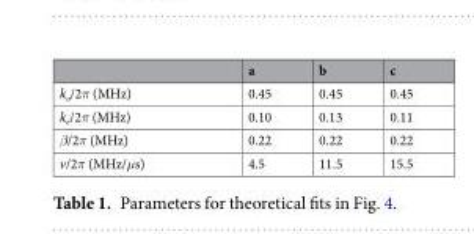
<table><thead><tr><td></td><td>a</td><td>b</td><td>c</td></tr></thead><tbody><tr><td>k<sub>o</sub>/2π (MHz)</td><td>0.45</td><td>0.45</td><td>0.45</td></tr><tr><td>k<sub>e</sub>/2π (MHz)</td><td>0.10</td><td>0.13</td><td>0.11</td></tr><tr><td>β/2π (MHz)</td><td>0.22</td><td>0.22</td><td>0.22</td></tr><tr><td>v/2π (MHz/μs)</td><td>4.5</td><td>11.5</td><td>15.5</td></tr></tbody></table>